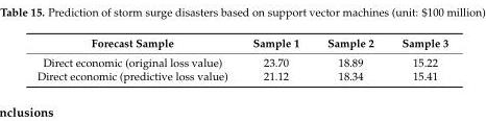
<table><thead><tr><td>Forecast Sample</td><td>Sample 1</td><td>Sample 2</td><td>Sample 3</td></tr></thead><tbody><tr><td>Direct economic (original loss value)</td><td>23.70</td><td>18.89</td><td>15.22</td></tr><tr><td>Direct economic (predictive loss value)</td><td>21.12</td><td>18.34</td><td>15.41</td></tr></tbody></table>